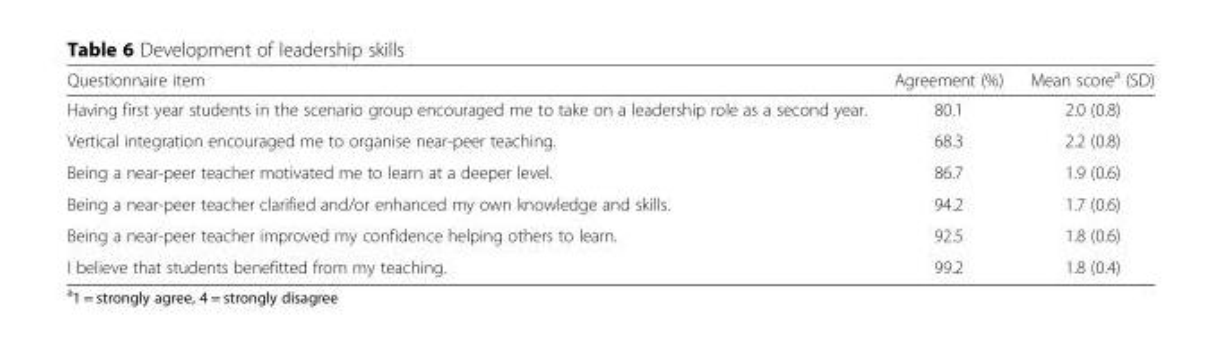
<table><thead><tr><td>Questionnaire item</td><td>Agreement (%)</td><td>Mean score<sup>a</sup> (SD)</td></tr></thead><tbody><tr><td>Having first year students in the scenario group encouraged me to take on a leadership role as a second year.</td><td>80.1</td><td>2.0 (0.8)</td></tr><tr><td>Vertical integration encouraged me to organise near-peer teaching.</td><td>68.3</td><td>2.2 (0.8)</td></tr><tr><td>Being a near-peer teacher motivated me to learn at a deeper level.</td><td>86.7</td><td>1.9 (0.6)</td></tr><tr><td>Being a near-peer teacher clarified and/or enhanced my own knowledge and skills.</td><td>94.2</td><td>1.7 (0.6)</td></tr><tr><td>Being a near-peer teacher improved my confidence helping others to learn.</td><td>92.5</td><td>1.8 (0.6)</td></tr><tr><td>I believe that students benefitted from my teaching.</td><td>99.2</td><td>1.8 (0.4)</td></tr></tbody></table>